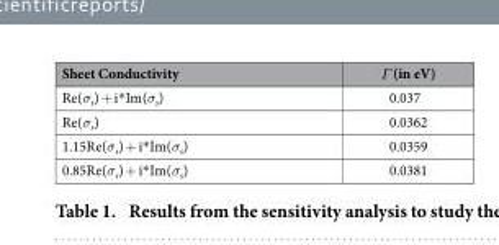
<table><thead><tr><td>Sheet Conductivity</td><td>Γ (in eV)</td></tr></thead><tbody><tr><td>Re(σ<sub>s</sub>) + i* Im(σ<sub>s</sub>)</td><td>0.037</td></tr><tr><td>Re(σ<sub>s</sub>)</td><td>0.0362</td></tr><tr><td>1.15Re(σ<sub>s</sub>) + i* Im(σ<sub>s</sub>)</td><td>0.0359</td></tr><tr><td>0.85Re(σ<sub>s</sub>) + i* Im(σ<sub>s</sub>)</td><td>0.0381</td></tr></tbody></table>